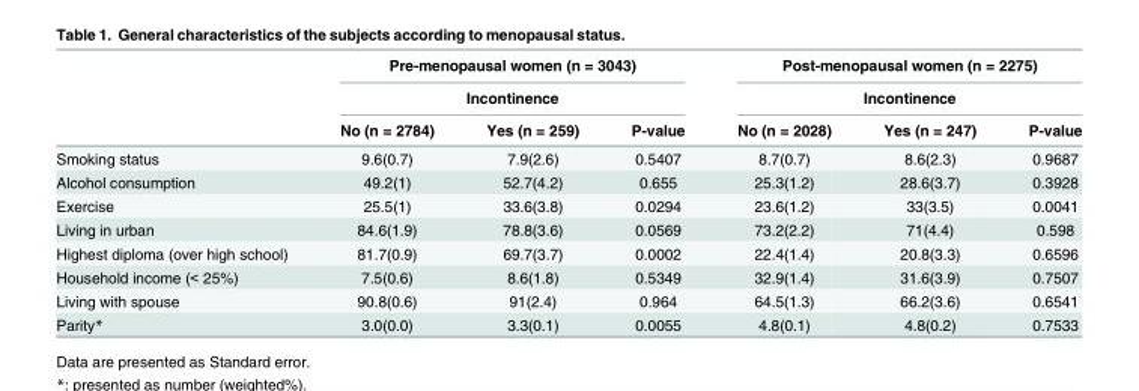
<table><thead><tr><td rowspan="3"></td><td rowspan="2" colspan="3">Pre-menopausal women (n = 3043) Incontinence</td><td rowspan="2" colspan="3">Post-menopausal women (n = 2275) Incontinence</td></tr><tr></tr><tr><td>No (n = 2784)</td><td>Yes (n = 259)</td><td>P-value</td><td>No (n = 2028)</td><td>Yes (n = 247)</td><td>P-value</td></tr></thead><tbody><tr><td>Smoking status</td><td>9.6(0.7)</td><td>7.9(2.6)</td><td>0.5407</td><td>8.7(0.7)</td><td>8.6(2.3)</td><td>0.9687</td></tr><tr><td>Alcohol consumption</td><td>49.2(1)</td><td>52.7(4.2)</td><td>0.655</td><td>25.3(1.2)</td><td>28.6(3.7)</td><td>0.3928</td></tr><tr><td>Exercise</td><td>25.5(1)</td><td>33.6(3.8)</td><td>0.0294</td><td>23.6(1.2)</td><td>33(3.5)</td><td>0.0041</td></tr><tr><td>Living in urban</td><td>84.6(1.9)</td><td>78.8(3.6)</td><td>0.0569</td><td>73.2(2.2)</td><td>71(4.4)</td><td>0.598</td></tr><tr><td>Highest diploma (over high school)</td><td>81.7(0.9)</td><td>69.7(3.7)</td><td>0.0002</td><td>22.4(1.4)</td><td>20.8(3.3)</td><td>0.6596</td></tr><tr><td>Household income (&lt; 25%)</td><td>7.5(0.6)</td><td>8.6(1.8)</td><td>0.5349</td><td>32.9(1.4)</td><td>31.6(3.9)</td><td>0.7507</td></tr><tr><td>Living with spouse</td><td>90.8(0.6)</td><td>91(2.4)</td><td>0.964</td><td>64.5(1.3)</td><td>66.2(3.6)</td><td>0.6541</td></tr><tr><td>Parity*</td><td>3.0(0.0)</td><td>3.3(0.1)</td><td>0.0055</td><td>4.8(0.1)</td><td>4.8(0.2)</td><td>0.7533</td></tr></tbody></table>